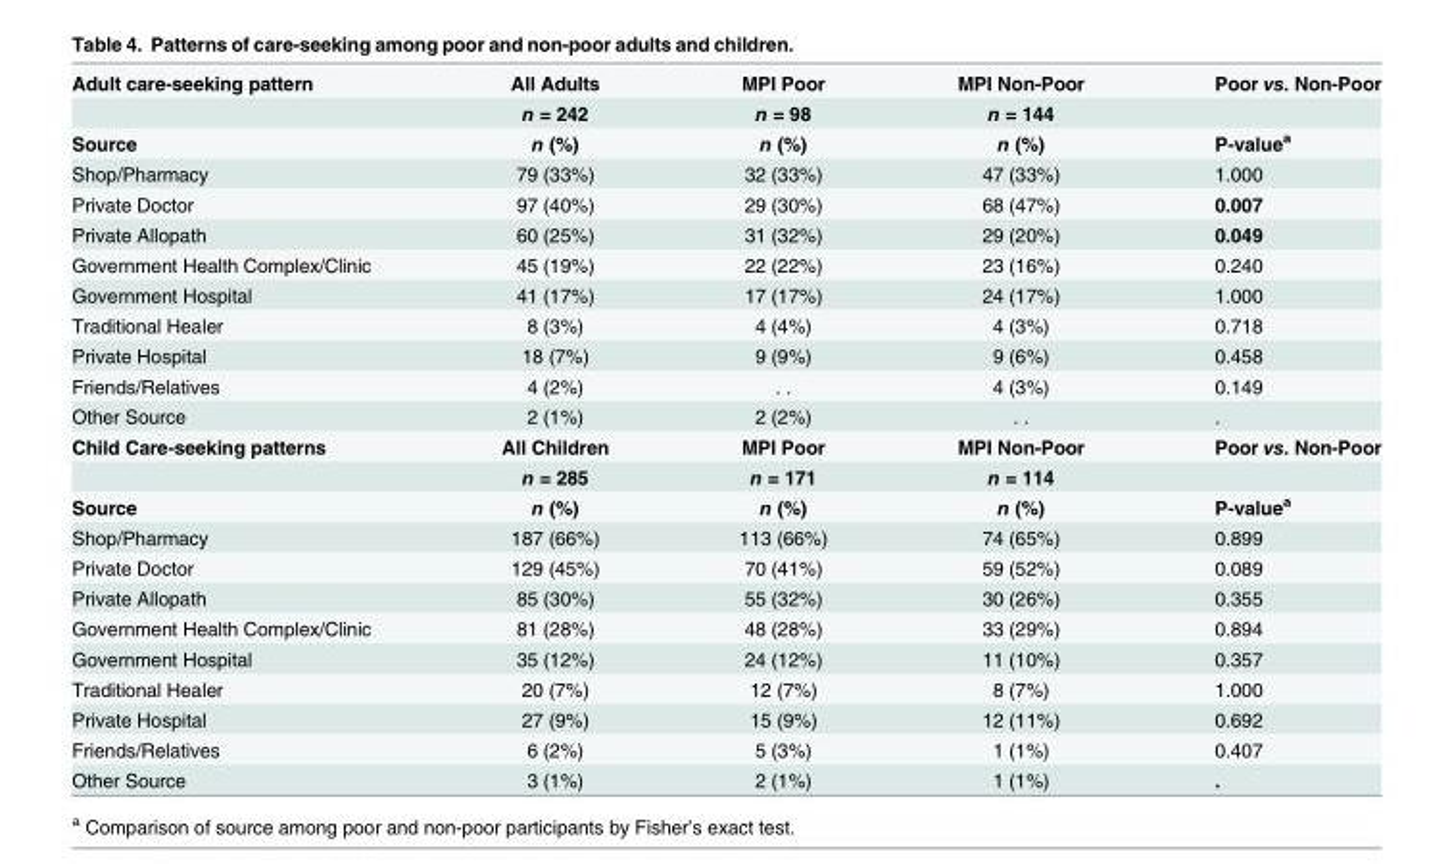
<table><tbody><tr><td rowspan="2">Adult care-seeking pattern</td><td>All Adults</td><td>MPI Poor</td><td>MPI Non-Poor</td><td>Poor vs. Non-Poor</td></tr><tr><td>n = 242</td><td>n = 98</td><td>n = 144</td><td></td></tr><tr><td>Source</td><td>n (%)</td><td>n (%)</td><td>n (%)</td><td>P-value<sup>a</sup></td></tr><tr><td>Shop/Pharmacy</td><td>79 (33%)</td><td>32 (33%)</td><td>47 (33%)</td><td>1.000</td></tr><tr><td>Private Doctor</td><td>97 (40%)</td><td>29 (30%)</td><td>68 (47%)</td><td>0.007</td></tr><tr><td>Private Allopath</td><td>60 (25%)</td><td>31 (32%)</td><td>29 (20%)</td><td>0.049</td></tr><tr><td>Government Health Complex/Clinic</td><td>45 (19%)</td><td>22 (22%)</td><td>23 (16%)</td><td>0.240</td></tr><tr><td>Government Hospital</td><td>41 (17%)</td><td>17 (17%)</td><td>24 (17%)</td><td>1.000</td></tr><tr><td>Traditional Healer</td><td>8 (3%)</td><td>4 (4%)</td><td>4 (3%)</td><td>0.718</td></tr><tr><td>Private Hospital</td><td>18 (7%)</td><td>9 (9%)</td><td>9 (6%)</td><td>0.458</td></tr><tr><td>Friends/Relatives</td><td>4 (2%)</td><td>. .</td><td>4 (3%)</td><td>0.149</td></tr><tr><td>Other Source</td><td>2 (1%)</td><td>2 (2%)</td><td>. .</td><td>.</td></tr><tr><td rowspan="2">Child Care-seeking patterns</td><td>All Children</td><td>MPI Poor</td><td>MPI Non-Poor</td><td>Poor vs. Non-Poor</td></tr><tr><td>n = 285</td><td>n = 171</td><td>n = 114</td><td></td></tr><tr><td>Source</td><td>n (%)</td><td>n (%)</td><td>n (%)</td><td>P-value<sup>a</sup></td></tr><tr><td>Shop/Pharmacy</td><td>187 (66%)</td><td>113 (66%)</td><td>74 (65%)</td><td>0.899</td></tr><tr><td>Private Doctor</td><td>129 (45%)</td><td>70 (41%)</td><td>59 (52%)</td><td>0.089</td></tr><tr><td>Private Allopath</td><td>85 (30%)</td><td>55 (32%)</td><td>30 (26%)</td><td>0.355</td></tr><tr><td>Government Health Complex/Clinic</td><td>81 (28%)</td><td>48 (28%)</td><td>33 (29%)</td><td>0.894</td></tr><tr><td>Government Hospital</td><td>35 (12%)</td><td>24 (12%)</td><td>11 (10%)</td><td>0.357</td></tr><tr><td>Traditional Healer</td><td>20 (7%)</td><td>12 (7%)</td><td>8 (7%)</td><td>1.000</td></tr><tr><td>Private Hospital</td><td>27 (9%)</td><td>15 (9%)</td><td>12 (11%)</td><td>0.692</td></tr><tr><td>Friends/Relatives</td><td>6 (2%)</td><td>5 (3%)</td><td>1 (1%)</td><td>0.407</td></tr><tr><td>Other Source</td><td>3 (1%)</td><td>2 (1%)</td><td>1 (1%)</td><td>.</td></tr></tbody></table>